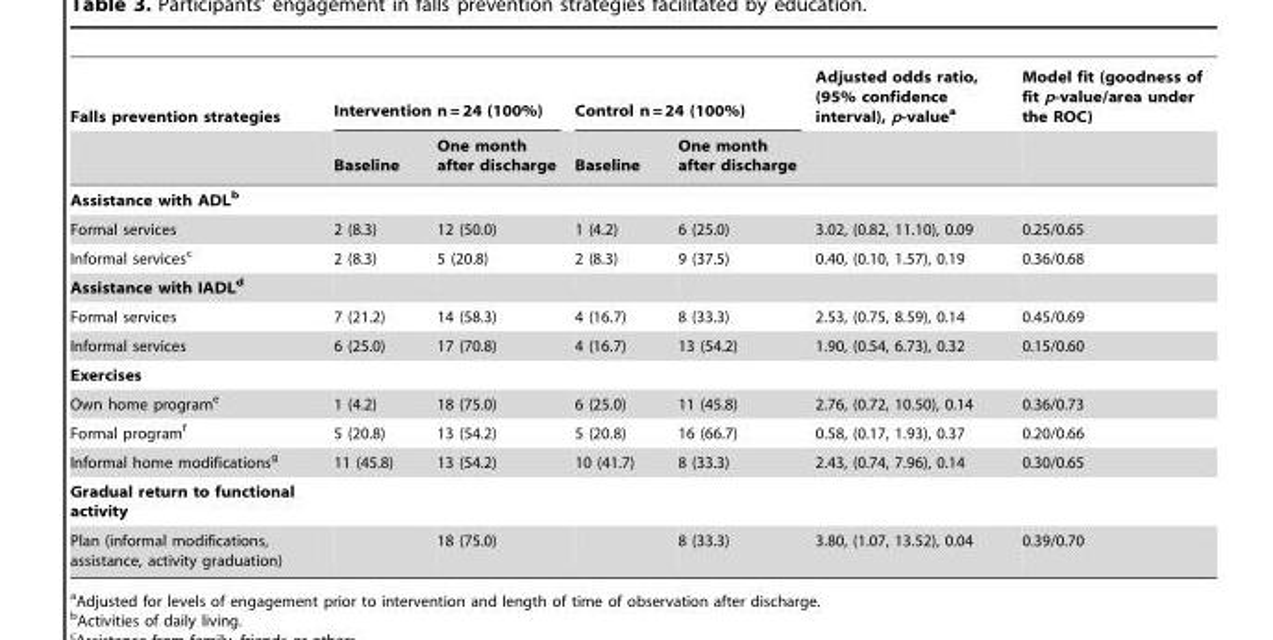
<table><thead><tr><td rowspan="2">Falls prevention strategies</td><td colspan="2">Intervention n = 24 (100%)</td><td colspan="2">Control n = 24 (100%)</td><td rowspan="2">Adjusted odds ratio, (95% confidence interval), p-value<sup>a</sup></td><td rowspan="2">Model fit (goodness of fit p-value/area under the ROC)</td></tr><tr><td>Baseline</td><td>One month after discharge</td><td>Baseline</td><td>One month after discharge</td></tr></thead><tbody><tr><td colspan="7">Assistance with ADLb</td></tr><tr><td>Formal services</td><td>2 (8.3)</td><td>12 (50.0)</td><td>1 (4.2)</td><td>6 (25.0)</td><td>3.02, (0.82, 11.10), 0.09</td><td>0.25/0.65</td></tr><tr><td>Informal services<sup>c</sup></td><td>2 (8.3)</td><td>5 (20.8)</td><td>2 (8.3)</td><td>9 (37.5)</td><td>0.40, (0.10, 1.57), 0.19</td><td>0.36/0.68</td></tr><tr><td colspan="7">Assistance with IADLd</td></tr><tr><td>Formal services</td><td>7 (21.2)</td><td>14 (58.3)</td><td>4 (16.7)</td><td>8 (33.3)</td><td>2.53, (0.75, 8.59), 0.14</td><td>0.45/0.69</td></tr><tr><td>Informal services</td><td>6 (25.0)</td><td>17 (70.8)</td><td>4 (16.7)</td><td>13 (54.2)</td><td>1.90, (0.54, 6.73), 0.32</td><td>0.15/0.60</td></tr><tr><td colspan="7">Exercises</td></tr><tr><td>Own home program<sup>e</sup></td><td>1 (4.2)</td><td>18 (75.0)</td><td>6 (25.0)</td><td>11 (45.8)</td><td>2.76, (0.72, 10.50), 0.14</td><td>0.36/0.73</td></tr><tr><td>Formal program<sup>f</sup></td><td>5 (20.8)</td><td>13 (54.2)</td><td>5 (20.8)</td><td>16 (66.7)</td><td>0.58, (0.17, 1.93), 0.37</td><td>0.20/0.66</td></tr><tr><td>Informal home modifications<sup>g</sup></td><td>11 (45.8)</td><td>13 (54.2)</td><td>10 (41.7)</td><td>8 (33.3)</td><td>2.43, (0.74, 7.96), 0.14</td><td>0.30/0.65</td></tr><tr><td colspan="7">Gradual return to functional activity</td></tr><tr><td>Plan (informal modifications, assistance, activity graduation)</td><td></td><td>18 (75.0)</td><td></td><td>8 (33.3)</td><td>3.80, (1.07, 13.52), 0.04</td><td>0.39/0.70</td></tr></tbody></table>